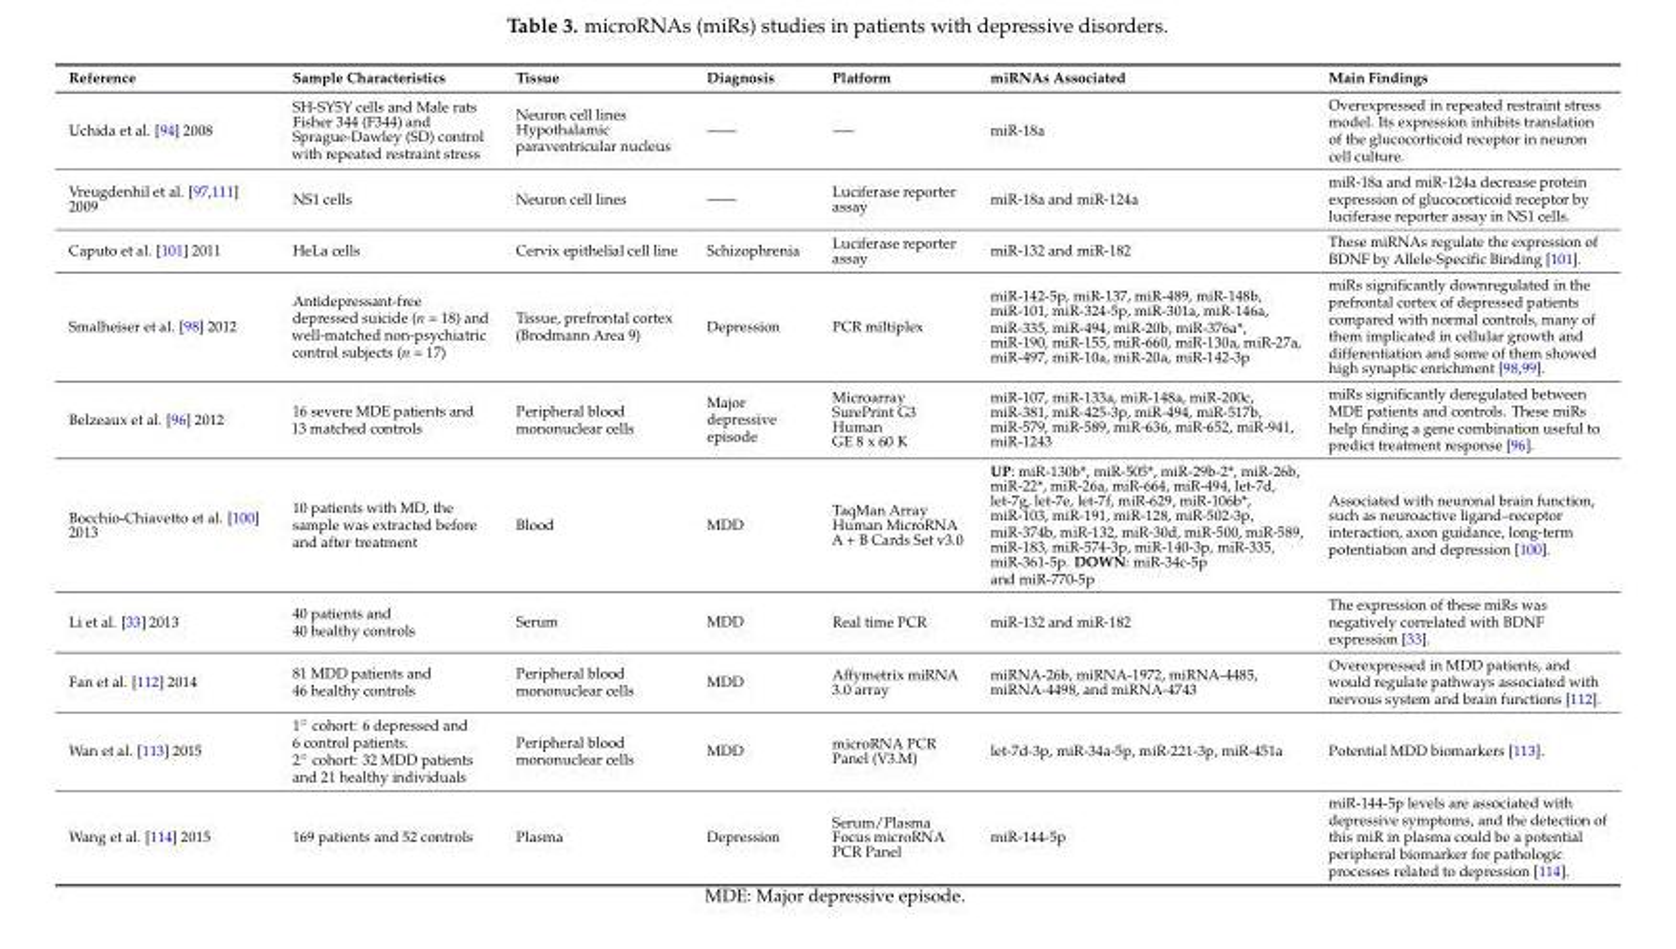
<table><thead><tr><td>Reference</td><td>Sample Characteristics</td><td>Tissue</td><td>Diagnosis</td><td>Platform</td><td>miRNAs Associated</td><td>Main Findings</td></tr></thead><tbody><tr><td>Uchida et al. [94] 2008</td><td>SH-SY5Y cells and Male rats Fisher 344 (F344) and Sprague-Dawley (SD) control with repeated restraint stress</td><td>Neuron cell lines Hypothalamic paraventricular nucleus</td><td>——</td><td>—–</td><td>miR-18a</td><td>Overexpressed in repeated restraint stress model. Its expression inhibits translation of the glucocorticoid receptor in neuron cell culture.</td></tr><tr><td>Vreugdenhil et al. [97,111] 2009</td><td>NS1 cells</td><td>Neuron cell lines</td><td>——</td><td>Luciferase reporter assay</td><td>miR-18a and miR-124a</td><td>miR-18a and miR-124a decrease protein expression of glucocorticoid receptor by luciferase reporter assay in NS1 cells.</td></tr><tr><td>Caputo et al. [101] 2011</td><td>HeLa cells</td><td>Cervix epithelial cell line</td><td>Schizophrenia</td><td>Luciferase reporter assay</td><td>miR-132 and miR-182</td><td>These miRNAs regulate the expression of BDNF by Allele-Specific Binding [101].</td></tr><tr><td>Smalheiser et al. [98] 2012</td><td>Antidepressant-free depressed suicide (n = 18) and well-matched non-psychiatric control subjects (n = 17)</td><td>Tissue, prefrontal cortex (Brodmann Area 9)</td><td>Depression</td><td>PCR miltiplex</td><td>miR-142-5p, miR-137, miR-489, miR-148b, miR-101, miR-324-5p, miR-301a, miR-146a, miR-335, miR-494, miR-20b, miR-376a*, miR-190, miR-155, miR-660, miR-130a, miR-27a, miR-497, miR-10a, miR-20a, miR-142-3p</td><td>miRs significantly downregulated in the prefrontal cortex of depressed patients compared with normal controls, many of them implicated in cellular growth and differentiation and some of them showed high synaptic enrichment [98,99].</td></tr><tr><td>Belzeaux et al. [96] 2012</td><td>16 severe MDE patients and 13 matched controls</td><td>Peripheral blood mononuclear cells</td><td>Major depressive episode</td><td>Microarray SurePrint G3 Human GE 8 x 60 K</td><td>miR-107, miR-133a, miR-148a, miR-200c, miR-381, miR-425-3p, miR-494, miR-517b, miR-579, miR-589, miR-636, miR-652, miR-941, miR-1243</td><td>miRs significantly deregulated between MDE patients and controls. These miRs help finding a gene combination useful to predict treatment response [96].</td></tr><tr><td>Bocchio-Chiavetto et al. [100] 2013</td><td>10 patients with MD, the sample was extracted before and after treatment</td><td>Blood</td><td>MDD</td><td>TaqMan Array Human MicroRNA A + B Cards Set v3.0</td><td>UP: miR-130b*, miR-505*, miR-29b-2*, miR-26b, miR-22*, miR-26a, miR-664, miR-494, let-7d, let-7g, let-7e, let-7f, miR-629, miR-106b*, miR-103, miR-191, miR-128, miR-502-3p, miR-374b, miR-132, miR-30d, miR-500, miR-589, miR-183, miR-574-3p, miR-140-3p, miR-335, miR-361-5p. DOWN: miR-34c-5p and miR-770-5p</td><td>Associated with neuronal brain function, such as neuroactive ligand–receptor interaction, axon guidance, long-term potentiation and depression [100].</td></tr><tr><td>Li et al. [33] 2013</td><td>40 patients and 40 healthy controls</td><td>Serum</td><td>MDD</td><td>Real time PCR</td><td>miR-132 and miR-182</td><td>The expression of these miRs was negatively correlated with BDNF expression [33].</td></tr><tr><td>Fan et al. [112] 2014</td><td>81 MDD patients and 46 healthy controls</td><td>Peripheral blood mononuclear cells</td><td>MDD</td><td>Affymetrix miRNA 3.0 array</td><td>miRNA-26b, miRNA-1972, miRNA-4485, miRNA-4498, and miRNA-4743</td><td>Overexpressed in MDD patients, and would regulate pathways associated with nervous system and brain functions [112].</td></tr><tr><td>Wan et al. [113] 2015</td><td>1˝ cohort: 6 depressed and 6 control patients. 2˝ cohort: 32 MDD patients and 21 healthy individuals</td><td>Peripheral blood mononuclear cells</td><td>MDD</td><td>microRNA PCR Panel (V3.M)</td><td>let-7d-3p, miR-34a-5p, miR-221-3p, miR-451a</td><td>Potential MDD biomarkers [113].</td></tr><tr><td>Wang et al. [114] 2015</td><td>169 patients and 52 controls</td><td>Plasma</td><td>Depression</td><td>Serum/Plasma Focus microRNA PCR Panel</td><td>miR-144-5p</td><td>miR-144-5p levels are associated with depressive symptoms, and the detection of this miR in plasma could be a potential peripheral biomarker for pathologic processes related to depression [114].</td></tr></tbody></table>